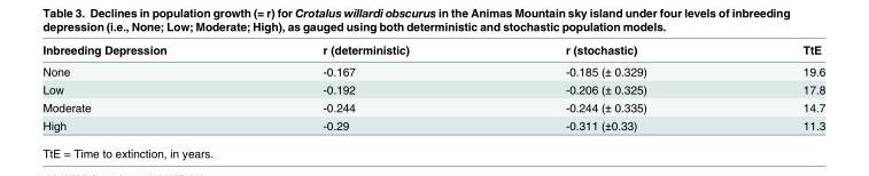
<table><thead><tr><td>Inbreeding Depression</td><td>r (deterministic)</td><td>r (stochastic)</td><td>TtE</td></tr></thead><tbody><tr><td>None</td><td>-0.167</td><td>-0.185 (± 0.329)</td><td>19.6</td></tr><tr><td>Low</td><td>-0.192</td><td>-0.206 (± 0.325)</td><td>17.8</td></tr><tr><td>Moderate</td><td>-0.244</td><td>-0.244 (± 0.335)</td><td>14.7</td></tr><tr><td>High</td><td>-0.29</td><td>-0.311 (±0.33)</td><td>11.3</td></tr></tbody></table>